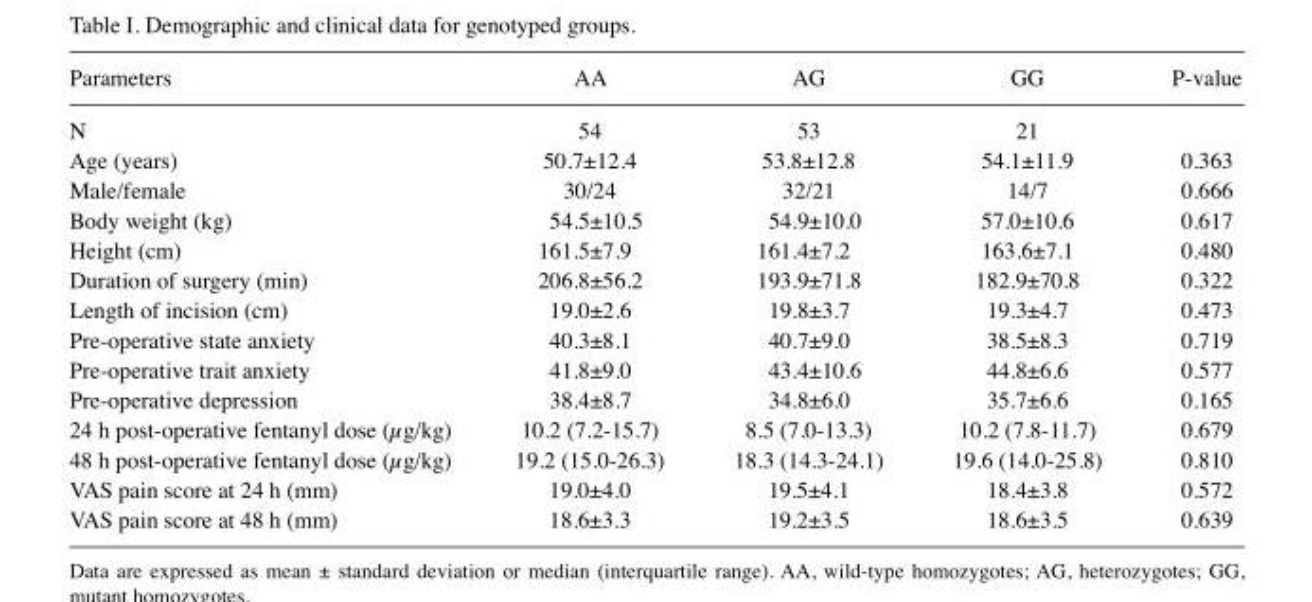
<table><thead><tr><td>Parameters</td><td>AA</td><td>AG</td><td>GG</td><td>P-value</td></tr></thead><tbody><tr><td>N</td><td>54</td><td>53</td><td>21</td><td></td></tr><tr><td>Age (years)</td><td>50.7±12.4</td><td>53.8±12.8</td><td>54.1±11.9</td><td>0.363</td></tr><tr><td>Male/female</td><td>30/24</td><td>32/21</td><td>14/7</td><td>0.666</td></tr><tr><td>Body weight (kg)</td><td>54.5±10.5</td><td>54.9±10.0</td><td>57.0±10.6</td><td>0.617</td></tr><tr><td>Height (cm)</td><td>161.5±7.9</td><td>161.4±7.2</td><td>163.6±7.1</td><td>0.480</td></tr><tr><td>Duration of surgery (min)</td><td>206.8±56.2</td><td>193.9±71.8</td><td>182.9±70.8</td><td>0.322</td></tr><tr><td>Length of incision (cm)</td><td>19.0±2.6</td><td>19.8±3.7</td><td>19.3±4.7</td><td>0.473</td></tr><tr><td>Pre-operative state anxiety</td><td>40.3±8.1</td><td>40.7±9.0</td><td>38.5±8.3</td><td>0.719</td></tr><tr><td>Pre-operative trait anxiety</td><td>41.8±9.0</td><td>43.4±10.6</td><td>44.8±6.6</td><td>0.577</td></tr><tr><td>Pre-operative depression</td><td>38.4±8.7</td><td>34.8±6.0</td><td>35.7±6.6</td><td>0.165</td></tr><tr><td>24 h post-operative fentanyl dose (µg/kg)</td><td>10.2 (7.2-15.7)</td><td>8.5 (7.0-13.3)</td><td>10.2 (7.8-11.7)</td><td>0.679</td></tr><tr><td>48 h post-operative fentanyl dose (µg/kg)</td><td>19.2 (15.0-26.3)</td><td>18.3 (14.3-24.1)</td><td>19.6 (14.0-25.8)</td><td>0.810</td></tr><tr><td>VAS pain score at 24 h (mm)</td><td>19.0±4.0</td><td>19.5±4.1</td><td>18.4±3.8</td><td>0.572</td></tr><tr><td>VAS pain score at 48 h (mm)</td><td>18.6±3.3</td><td>19.2±3.5</td><td>18.6±3.5</td><td>0.639</td></tr></tbody></table>